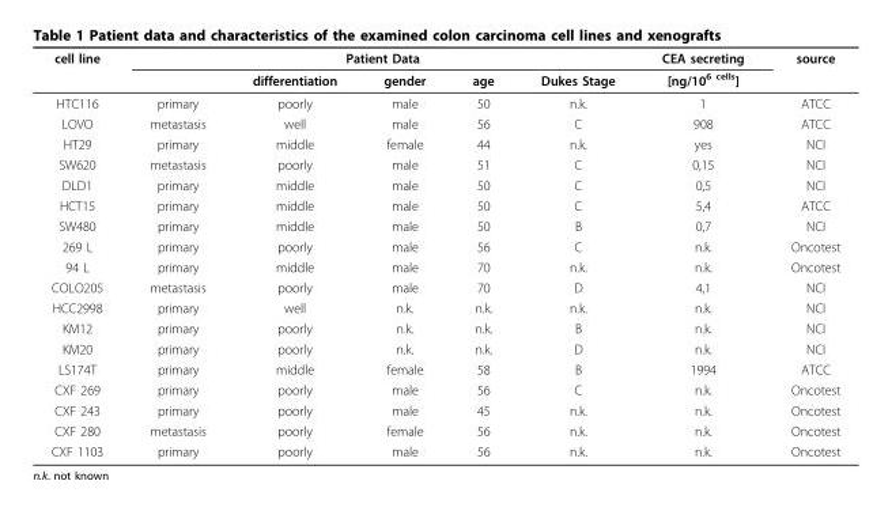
<table><thead><tr><td rowspan="2">cell line</td><td colspan="5">Patient Data</td><td rowspan="2">CEA secreting [ng/10<sup>6 cells</sup>]</td><td rowspan="2">source</td></tr><tr><td></td><td>differentiation</td><td>gender</td><td>age</td><td>Dukes Stage</td></tr></thead><tbody><tr><td>HTC116</td><td>primary</td><td>poorly</td><td>male</td><td>50</td><td>n.k.</td><td>1</td><td>ATCC</td></tr><tr><td>LOVO</td><td>metastasis</td><td>well</td><td>male</td><td>56</td><td>C</td><td>908</td><td>ATCC</td></tr><tr><td>HT29</td><td>primary</td><td>middle</td><td>female</td><td>44</td><td>n.k.</td><td>yes</td><td>NCI</td></tr><tr><td>SW620</td><td>metastasis</td><td>poorly</td><td>male</td><td>51</td><td>C</td><td>0,15</td><td>NCI</td></tr><tr><td>DLD1</td><td>primary</td><td>middle</td><td>male</td><td>50</td><td>C</td><td>0,5</td><td>NCI</td></tr><tr><td>HCT15</td><td>primary</td><td>middle</td><td>male</td><td>50</td><td>C</td><td>5,4</td><td>ATCC</td></tr><tr><td>SW480</td><td>primary</td><td>middle</td><td>male</td><td>50</td><td>B</td><td>0,7</td><td>NCI</td></tr><tr><td>269 L</td><td>primary</td><td>poorly</td><td>male</td><td>56</td><td>C</td><td>n.k.</td><td>Oncotest</td></tr><tr><td>94 L</td><td>primary</td><td>middle</td><td>male</td><td>70</td><td>n.k.</td><td>n.k.</td><td>Oncotest</td></tr><tr><td>COLO205</td><td>metastasis</td><td>poorly</td><td>male</td><td>70</td><td>D</td><td>4,1</td><td>NCI</td></tr><tr><td>HCC2998</td><td>primary</td><td>well</td><td>n.k.</td><td>n.k.</td><td>n.k.</td><td>n.k.</td><td>NCI</td></tr><tr><td>KM12</td><td>primary</td><td>poorly</td><td>n.k.</td><td>n.k.</td><td>B</td><td>n.k.</td><td>NCI</td></tr><tr><td>KM20</td><td>primary</td><td>poorly</td><td>n.k.</td><td>n.k.</td><td>D</td><td>n.k.</td><td>NCI</td></tr><tr><td>LS174T</td><td>primary</td><td>middle</td><td>female</td><td>58</td><td>B</td><td>1994</td><td>ATCC</td></tr><tr><td>CXF 269</td><td>primary</td><td>poorly</td><td>male</td><td>56</td><td>C</td><td>n.k.</td><td>Oncotest</td></tr><tr><td>CXF 243</td><td>primary</td><td>poorly</td><td>male</td><td>45</td><td>n.k.</td><td>n.k.</td><td>Oncotest</td></tr><tr><td>CXF 280</td><td>metastasis</td><td>poorly</td><td>female</td><td>56</td><td>n.k.</td><td>n.k.</td><td>Oncotest</td></tr><tr><td>CXF 1103</td><td>primary</td><td>poorly</td><td>male</td><td>56</td><td>n.k.</td><td>n.k.</td><td>Oncotest</td></tr></tbody></table>